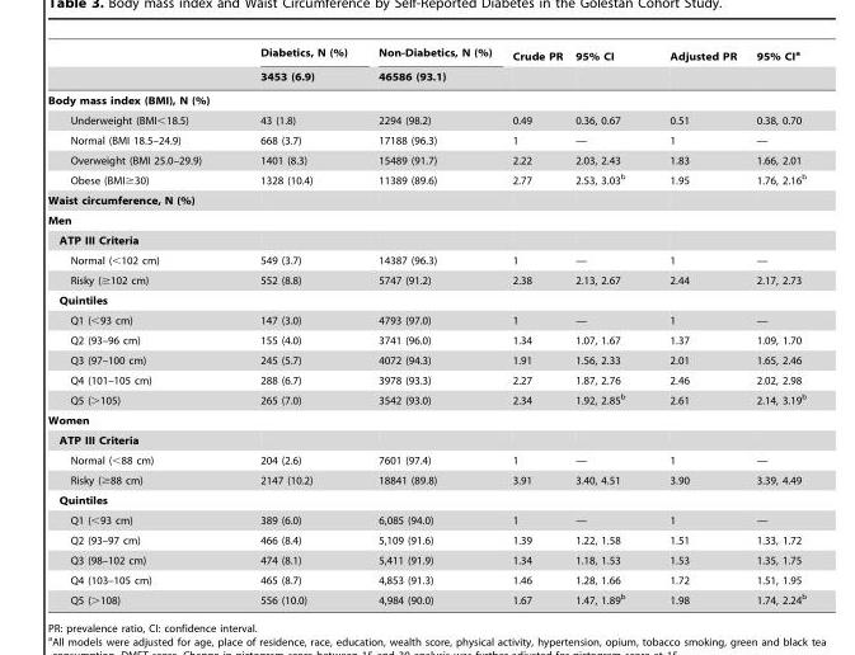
<table><thead><tr><td rowspan="2"></td><td rowspan="2">Diabetics, N (%) 3453 (6.9)</td><td rowspan="2">Non-Diabetics, N (%) 46586 (93.1)</td><td rowspan="2">Crude PR</td><td rowspan="2">95% CI</td><td rowspan="2">Adjusted PR</td><td rowspan="2">95% CI<sup>a</sup></td></tr><tr></tr></thead><tbody><tr><td colspan="7">Body mass index (BMI), N (%)</td></tr><tr><td>Underweight (BMI&lt;18.5)</td><td>43 (1.8)</td><td>2294 (98.2)</td><td>0.49</td><td>0.36, 0.67</td><td>0.51</td><td>0.38, 0.70</td></tr><tr><td>Normal (BMI 18.5–24.9)</td><td>668 (3.7)</td><td>17188 (96.3)</td><td>1</td><td>—</td><td>1</td><td>—</td></tr><tr><td>Overweight (BMI 25.0–29.9)</td><td>1401 (8.3)</td><td>15489 (91.7)</td><td>2.22</td><td>2.03, 2.43</td><td>1.83</td><td>1.66, 2.01</td></tr><tr><td>Obese (BMI≥30)</td><td>1328 (10.4)</td><td>11389 (89.6)</td><td>2.77</td><td>2.53, 3.03<sup>b</sup></td><td>1.95</td><td>1.76, 2.16<sup>b</sup></td></tr><tr><td colspan="7">Waist circumference, N (%)</td></tr><tr><td colspan="7">Men</td></tr><tr><td colspan="7">ATP III Criteria</td></tr><tr><td>Normal (&lt;102 cm)</td><td>549 (3.7)</td><td>14387 (96.3)</td><td>1</td><td>—</td><td>1</td><td>—</td></tr><tr><td>Risky (≥102 cm)</td><td>552 (8.8)</td><td>5747 (91.2)</td><td>2.38</td><td>2.13, 2.67</td><td>2.44</td><td>2.17, 2.73</td></tr><tr><td colspan="7">Quintiles</td></tr><tr><td>Q1 (&lt;93 cm)</td><td>147 (3.0)</td><td>4793 (97.0)</td><td>1</td><td>—</td><td>1</td><td>—</td></tr><tr><td>Q2 (93–96 cm)</td><td>155 (4.0)</td><td>3741 (96.0)</td><td>1.34</td><td>1.07, 1.67</td><td>1.37</td><td>1.09, 1.70</td></tr><tr><td>Q3 (97–100 cm)</td><td>245 (5.7)</td><td>4072 (94.3)</td><td>1.91</td><td>1.56, 2.33</td><td>2.01</td><td>1.65, 2.46</td></tr><tr><td>Q4 (101–105 cm)</td><td>288 (6.7)</td><td>3978 (93.3)</td><td>2.27</td><td>1.87, 2.76</td><td>2.46</td><td>2.02, 2.98</td></tr><tr><td>Q5 (&gt;105)</td><td>265 (7.0)</td><td>3542 (93.0)</td><td>2.34</td><td>1.92, 2.85<sup>b</sup></td><td>2.61</td><td>2.14, 3.19<sup>b</sup></td></tr><tr><td colspan="7">Women</td></tr><tr><td colspan="7">ATP III Criteria</td></tr><tr><td>Normal (&lt;88 cm)</td><td>204 (2.6)</td><td>7601 (97.4)</td><td>1</td><td>—</td><td>1</td><td>—</td></tr><tr><td>Risky (≥88 cm)</td><td>2147 (10.2)</td><td>18841 (89.8)</td><td>3.91</td><td>3.40, 4.51</td><td>3.90</td><td>3.39, 4.49</td></tr><tr><td colspan="7">Quintiles</td></tr><tr><td>Q1 (&lt;93 cm)</td><td>389 (6.0)</td><td>6,085 (94.0)</td><td>1</td><td>—</td><td>1</td><td>—</td></tr><tr><td>Q2 (93–97 cm)</td><td>466 (8.4)</td><td>5,109 (91.6)</td><td>1.39</td><td>1.22, 1.58</td><td>1.51</td><td>1.33, 1.72</td></tr><tr><td>Q3 (98–102 cm)</td><td>474 (8.1)</td><td>5,411 (91.9)</td><td>1.34</td><td>1.18, 1.53</td><td>1.53</td><td>1.35, 1.75</td></tr><tr><td>Q4 (103–105 cm)</td><td>465 (8.7)</td><td>4,853 (91.3)</td><td>1.46</td><td>1.28, 1.66</td><td>1.72</td><td>1.51, 1.95</td></tr><tr><td>Q5 (&gt;108)</td><td>556 (10.0)</td><td>4,984 (90.0)</td><td>1.67</td><td>1.47, 1.89<sup>b</sup></td><td>1.98</td><td>1.74, 2.24<sup>b</sup></td></tr></tbody></table>